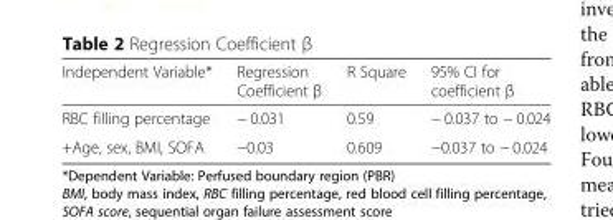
<table><thead><tr><td>Independent Variable*</td><td>Regression Coefficient β</td><td>R Square</td><td>95% CI for coefficient β</td></tr></thead><tbody><tr><td>RBC filling percentage</td><td>− 0.031</td><td>0.59</td><td>− 0.037 to − 0.024</td></tr><tr><td>+Age, sex, BMI, SOFA</td><td>−0.03</td><td>0.609</td><td>−0.037 to − 0.024</td></tr></tbody></table>